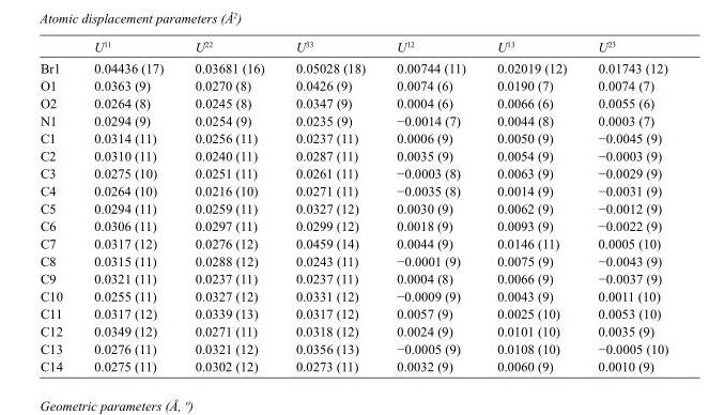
<table><thead><tr><td></td><td>U<sup>11</sup></td><td>U<sup>22</sup></td><td>U<sup>33</sup></td><td>U<sup>12</sup></td><td>U<sup>13</sup></td><td>U<sup>23</sup></td></tr></thead><tbody><tr><td>Br1</td><td>0.04436 (17)</td><td>0.03681 (16)</td><td>0.05028 (18)</td><td>0.00744 (11)</td><td>0.02019 (12)</td><td>0.01743 (12)</td></tr><tr><td>O1</td><td>0.0363 (9)</td><td>0.0270 (8)</td><td>0.0426 (9)</td><td>0.0074 (6)</td><td>0.0190 (7)</td><td>0.0074 (7)</td></tr><tr><td>O2</td><td>0.0264 (8)</td><td>0.0245 (8)</td><td>0.0347 (9)</td><td>0.0004 (6)</td><td>0.0066 (6)</td><td>0.0055 (6)</td></tr><tr><td>N1</td><td>0.0294 (9)</td><td>0.0254 (9)</td><td>0.0235 (9)</td><td>−0.0014 (7)</td><td>0.0044 (8)</td><td>0.0003 (7)</td></tr><tr><td>C1</td><td>0.0314 (11)</td><td>0.0256 (11)</td><td>0.0237 (11)</td><td>0.0006 (9)</td><td>0.0050 (9)</td><td>−0.0045 (9)</td></tr><tr><td>C2</td><td>0.0310 (11)</td><td>0.0240 (11)</td><td>0.0287 (11)</td><td>0.0035 (9)</td><td>0.0054 (9)</td><td>−0.0003 (9)</td></tr><tr><td>C3</td><td>0.0275 (10)</td><td>0.0251 (11)</td><td>0.0261 (11)</td><td>−0.0003 (8)</td><td>0.0063 (9)</td><td>−0.0029 (9)</td></tr><tr><td>C4</td><td>0.0264 (10)</td><td>0.0216 (10)</td><td>0.0271 (11)</td><td>−0.0035 (8)</td><td>0.0014 (9)</td><td>−0.0031 (9)</td></tr><tr><td>C5</td><td>0.0294 (11)</td><td>0.0259 (11)</td><td>0.0327 (12)</td><td>0.0030 (9)</td><td>0.0062 (9)</td><td>−0.0012 (9)</td></tr><tr><td>C6</td><td>0.0306 (11)</td><td>0.0297 (11)</td><td>0.0299 (12)</td><td>0.0018 (9)</td><td>0.0093 (9)</td><td>−0.0022 (9)</td></tr><tr><td>C7</td><td>0.0317 (12)</td><td>0.0276 (12)</td><td>0.0459 (14)</td><td>0.0044 (9)</td><td>0.0146 (11)</td><td>0.0005 (10)</td></tr><tr><td>C8</td><td>0.0315 (11)</td><td>0.0288 (12)</td><td>0.0243 (11)</td><td>−0.0001 (9)</td><td>0.0075 (9)</td><td>−0.0043 (9)</td></tr><tr><td>C9</td><td>0.0321 (11)</td><td>0.0237 (11)</td><td>0.0237 (11)</td><td>0.0004 (8)</td><td>0.0066 (9)</td><td>−0.0037 (9)</td></tr><tr><td>C10</td><td>0.0255 (11)</td><td>0.0327 (12)</td><td>0.0331 (12)</td><td>−0.0009 (9)</td><td>0.0043 (9)</td><td>0.0011 (10)</td></tr><tr><td>C11</td><td>0.0317 (12)</td><td>0.0339 (13)</td><td>0.0317 (12)</td><td>0.0057 (9)</td><td>0.0025 (10)</td><td>0.0053 (10)</td></tr><tr><td>C12</td><td>0.0349 (12)</td><td>0.0271 (11)</td><td>0.0318 (12)</td><td>0.0024 (9)</td><td>0.0101 (10)</td><td>0.0035 (9)</td></tr><tr><td>C13</td><td>0.0276 (11)</td><td>0.0321 (12)</td><td>0.0356 (13)</td><td>−0.0005 (9)</td><td>0.0108 (10)</td><td>−0.0005 (10)</td></tr><tr><td>C14</td><td>0.0275 (11)</td><td>0.0302 (12)</td><td>0.0273 (11)</td><td>0.0032 (9)</td><td>0.0060 (9)</td><td>0.0010 (9)</td></tr></tbody></table>